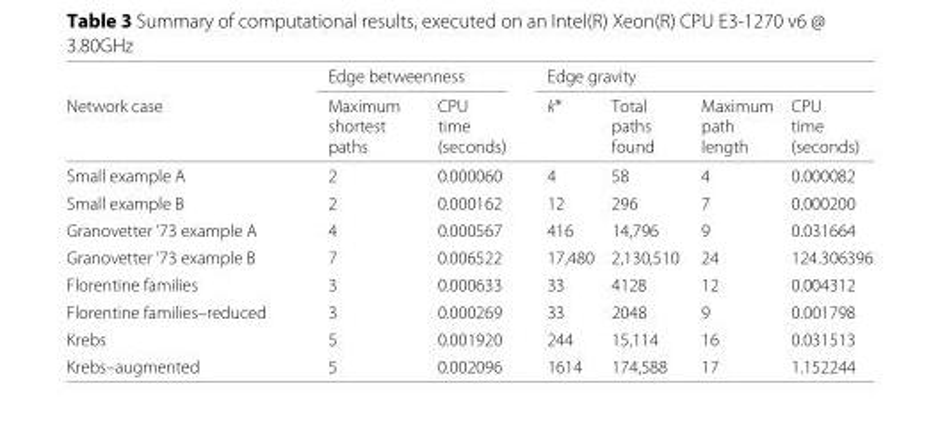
<table><thead><tr><td rowspan="2">Network case</td><td colspan="2">Edge betweenness</td><td colspan="4">Edge gravity</td></tr><tr><td>Maximum shortest paths</td><td>CPU time (seconds)</td><td>k∗</td><td>Total paths found</td><td>Maximum path length</td><td>CPU time (seconds)</td></tr></thead><tbody><tr><td>Small example A</td><td>2</td><td>0.000060</td><td>4</td><td>58</td><td>4</td><td>0.000082</td></tr><tr><td>Small example B</td><td>2</td><td>0.000162</td><td>12</td><td>296</td><td>7</td><td>0.000200</td></tr><tr><td>Granovetter ’73 example A</td><td>4</td><td>0.000567</td><td>416</td><td>14,796</td><td>9</td><td>0.031664</td></tr><tr><td>Granovetter ’73 example B</td><td>7</td><td>0.006522</td><td>17,480</td><td>2,130,510</td><td>24</td><td>124.306396</td></tr><tr><td>Florentine families</td><td>3</td><td>0.000633</td><td>33</td><td>4128</td><td>12</td><td>0.004312</td></tr><tr><td>Florentine families–reduced</td><td>3</td><td>0.000269</td><td>33</td><td>2048</td><td>9</td><td>0.001798</td></tr><tr><td>Krebs</td><td>5</td><td>0.001920</td><td>244</td><td>15,114</td><td>16</td><td>0.031513</td></tr><tr><td>Krebs–augmented</td><td>5</td><td>0.002096</td><td>1614</td><td>174,588</td><td>17</td><td>1.152244</td></tr></tbody></table>